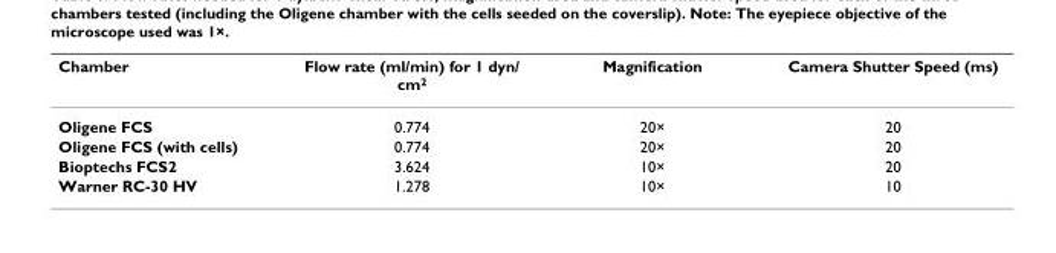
<table><thead><tr><td>Chamber</td><td>Flow rate (ml/min) for 1 dyn/ cm2</td><td>Magnification</td><td>Camera Shutter Speed (ms)</td></tr></thead><tbody><tr><td>Oligene FCS</td><td>0.774</td><td>20×</td><td>20</td></tr><tr><td>Oligene FCS (with cells)</td><td>0.774</td><td>20×</td><td>20</td></tr><tr><td>Bioptechs FCS2</td><td>3.624</td><td>10×</td><td>20</td></tr><tr><td>Warner RC-30 HV</td><td>1.278</td><td>10×</td><td>10</td></tr></tbody></table>